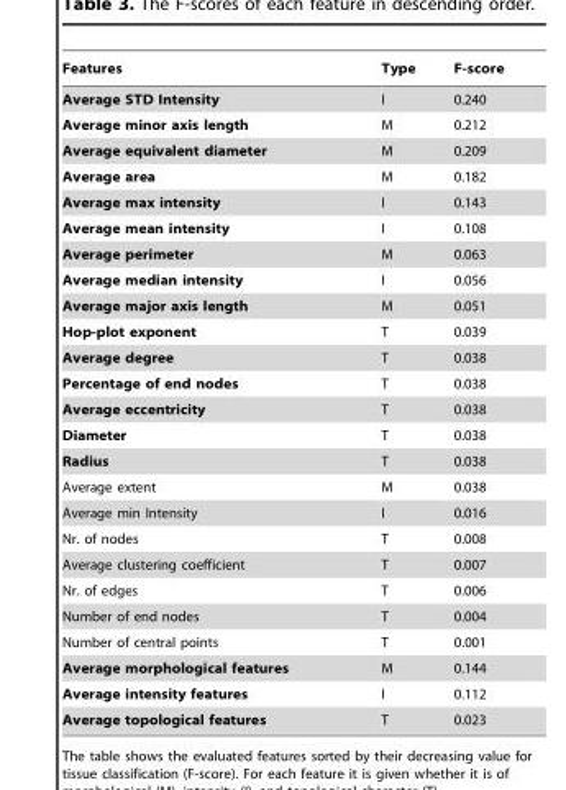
<table><thead><tr><td>Features</td><td>Type</td><td>F-score</td></tr></thead><tbody><tr><td>Average STD Intensity</td><td>I</td><td>0.240</td></tr><tr><td>Average minor axis length</td><td>M</td><td>0.212</td></tr><tr><td>Average equivalent diameter</td><td>M</td><td>0.209</td></tr><tr><td>Average area</td><td>M</td><td>0.182</td></tr><tr><td>Average max intensity</td><td>I</td><td>0.143</td></tr><tr><td>Average mean intensity</td><td>I</td><td>0.108</td></tr><tr><td>Average perimeter</td><td>M</td><td>0.063</td></tr><tr><td>Average median intensity</td><td>I</td><td>0.056</td></tr><tr><td>Average major axis length</td><td>M</td><td>0.051</td></tr><tr><td>Hop-plot exponent</td><td>T</td><td>0.039</td></tr><tr><td>Average degree</td><td>T</td><td>0.038</td></tr><tr><td>Percentage of end nodes</td><td>T</td><td>0.038</td></tr><tr><td>Average eccentricity</td><td>T</td><td>0.038</td></tr><tr><td>Diameter</td><td>T</td><td>0.038</td></tr><tr><td>Radius</td><td>T</td><td>0.038</td></tr><tr><td>Average extent</td><td>M</td><td>0.038</td></tr><tr><td>Average min Intensity</td><td>I</td><td>0.016</td></tr><tr><td>Nr. of nodes</td><td>T</td><td>0.008</td></tr><tr><td>Average clustering coefficient</td><td>T</td><td>0.007</td></tr><tr><td>Nr. of edges</td><td>T</td><td>0.006</td></tr><tr><td>Number of end nodes</td><td>T</td><td>0.004</td></tr><tr><td>Number of central points</td><td>T</td><td>0.001</td></tr><tr><td>Average morphological features</td><td>M</td><td>0.144</td></tr><tr><td>Average intensity features</td><td>I</td><td>0.112</td></tr><tr><td>Average topological features</td><td>T</td><td>0.023</td></tr></tbody></table>